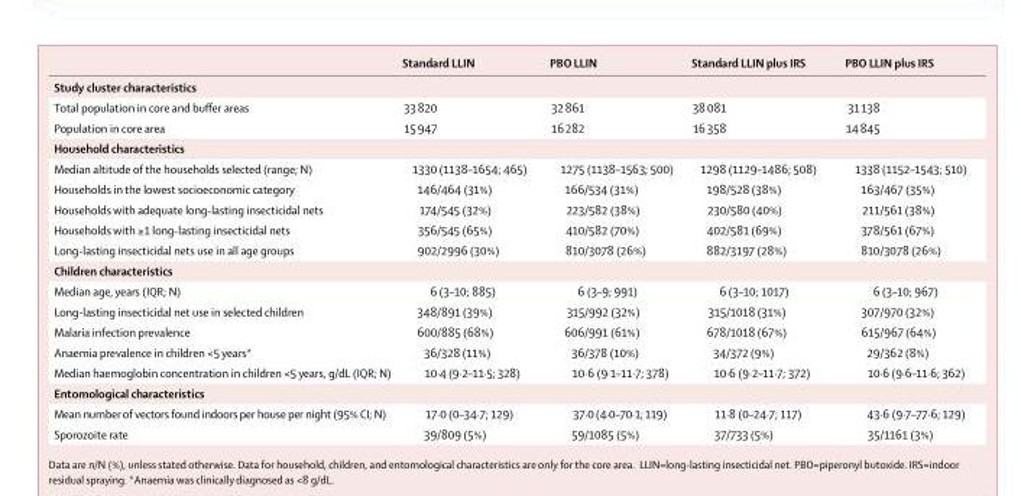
<table><thead><tr><td></td><td>Standard LLIN</td><td>PBO LLIN</td><td>Standard LLIN plus IRS</td><td>PBO LLIN plus IRS</td></tr></thead><tbody><tr><td colspan="5">Study cluster characteristics</td></tr><tr><td>Total population in core and buffer areas</td><td>33 820</td><td>32 861</td><td>38 081</td><td>31 138</td></tr><tr><td>Population in core area</td><td>15 947</td><td>16 282</td><td>16 358</td><td>14 845</td></tr><tr><td colspan="5">Household characteristics</td></tr><tr><td>Median altitude of the households selected (range; N)</td><td>1330 (1138–1654; 465)</td><td>1275 (1138–1563; 500)</td><td>1298 (1129–1486; 508)</td><td>1338 (1152–1543; 510)</td></tr><tr><td>Households in the lowest socioeconomic category</td><td>146/464 (31%)</td><td>166/534 (31%)</td><td>198/528 (38%)</td><td>163/467 (35%)</td></tr><tr><td>Households with adequate long-lasting insecticidal nets</td><td>174/545 (32%)</td><td>223/582 (38%)</td><td>230/580 (40%)</td><td>211/561 (38%)</td></tr><tr><td>Households with ≥1 long-lasting insecticidal nets</td><td>356/545 (65%)</td><td>410/582 (70%)</td><td>402/581 (69%)</td><td>378/561 (67%)</td></tr><tr><td>Long-lasting insecticidal nets use in all age groups</td><td>902/2996 (30%)</td><td>810/3078 (26%)</td><td>882/3197 (28%)</td><td>810/3078 (26%)</td></tr><tr><td colspan="5">Children characteristics</td></tr><tr><td>Median age, years (IQR; N)</td><td>6 (3–10; 885)</td><td>6 (3–9; 991)</td><td>6 (3–10; 1017)</td><td>6 (3–10; 967)</td></tr><tr><td>Long-lasting insecticidal net use in selected children</td><td>348/891 (39%)</td><td>315/992 (32%)</td><td>315/1018 (31%)</td><td>307/970 (32%)</td></tr><tr><td>Malaria infection prevalence</td><td>600/885 (68%)</td><td>606/991 (61%)</td><td>678/1018 (67%)</td><td>615/967 (64%)</td></tr><tr><td>Anaemia prevalence in children &lt;5 years*</td><td>36/328 (11%)</td><td>36/378 (10%)</td><td>34/372 (9%)</td><td>29/362 (8%)</td></tr><tr><td>Median haemoglobin concentration in children &lt;5 years, g/dL (IQR; N)</td><td>10·4 (9·2–11·5; 328)</td><td>10·6 (9·1–11·7; 378)</td><td>10·6 (9·2–11·7; 372)</td><td>10·6 (9·6–11·6; 362)</td></tr><tr><td colspan="5">Entomological characteristics</td></tr><tr><td>Mean number of vectors found indoors per house per night (95% CI; N)</td><td>17·0 (0–34·7; 129)</td><td>37·0 (4·0–70·1; 119)</td><td>11·8 (0–24·7; 117)</td><td>43·6 (9·7–77·6; 129)</td></tr><tr><td>Sporozoite rate</td><td>39/809 (5%)</td><td>59/1085 (5%)</td><td>37/733 (5%)</td><td>35/1161 (3%)</td></tr></tbody></table>